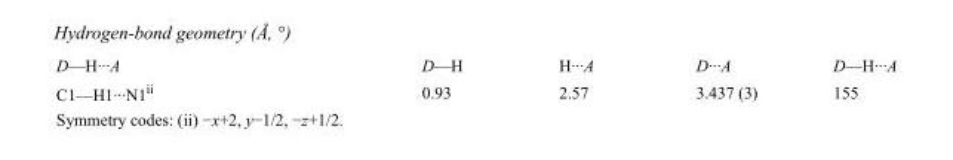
<table><tbody><tr><td>D—H···A</td><td>D—H</td><td>H···A</td><td>D···A</td><td>D—H···A</td></tr><tr><td>C1—H1···N1<sup>ii</sup></td><td>0.93</td><td>2.57</td><td>3.437 (3)</td><td>155</td></tr></tbody></table>